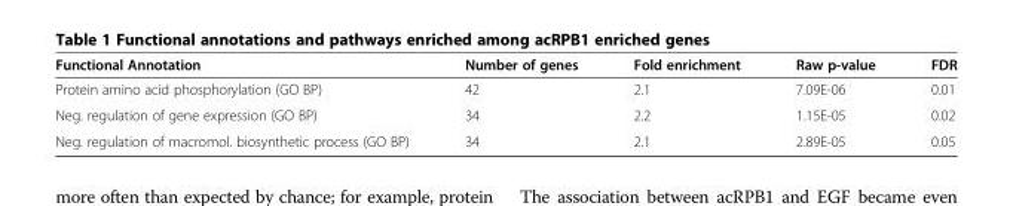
<table><thead><tr><td>Functional Annotation</td><td>Number of genes</td><td>Fold enrichment</td><td>Raw p-value</td><td>FDR</td></tr></thead><tbody><tr><td>Protein amino acid phosphorylation (GO BP)</td><td>42</td><td>2.1</td><td>7.09E-06</td><td>0.01</td></tr><tr><td>Neg. regulation of gene expression (GO BP)</td><td>34</td><td>2.2</td><td>1.15E-05</td><td>0.02</td></tr><tr><td>Neg. regulation of macromol. biosynthetic process (GO BP)</td><td>34</td><td>2.1</td><td>2.89E-05</td><td>0.05</td></tr></tbody></table>